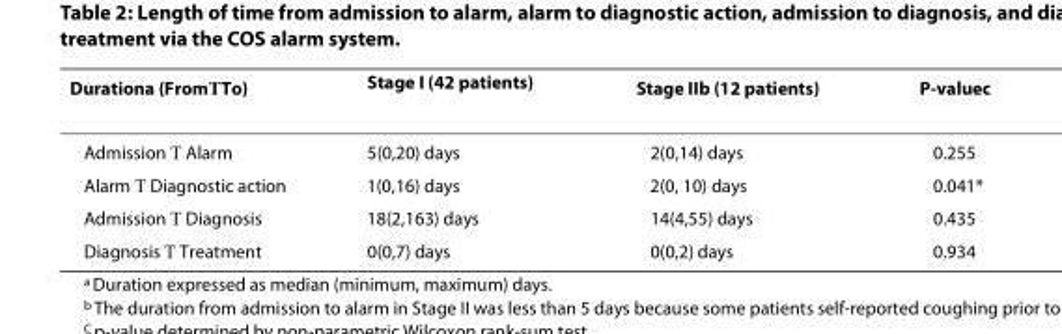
<table><thead><tr><td>Duration<sup>a</sup> (From→To)</td><td>Stage I (42 patients)</td><td>Stage II<sup>b</sup> (12 patients)</td><td>P-value<sup>c</sup></td></tr></thead><tbody><tr><td>Admission → Alarm</td><td>5(0,20) days</td><td>2(0,14) days</td><td>0.255</td></tr><tr><td>Alarm → Diagnostic action</td><td>1(0,16) days</td><td>2(0, 10) days</td><td>0.041*</td></tr><tr><td>Admission → Diagnosis</td><td>18(2,163) days</td><td>14(4,55) days</td><td>0.435</td></tr><tr><td>Diagnosis → Treatment</td><td>0(0,7) days</td><td>0(0,2) days</td><td>0.934</td></tr></tbody></table>